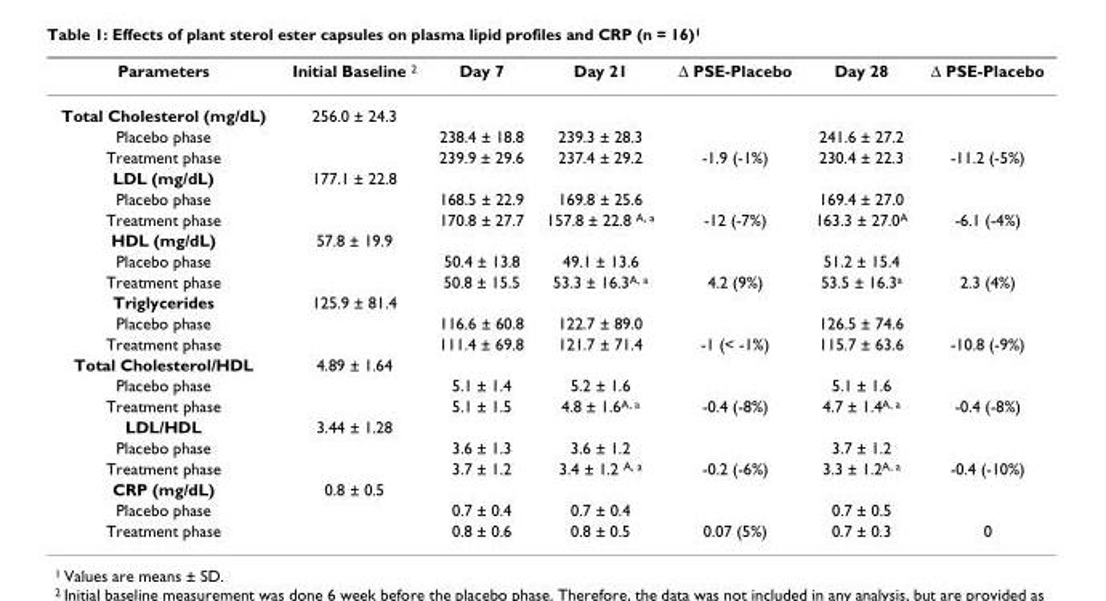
<table><thead><tr><td>Parameters</td><td>Initial Baseline <sup>2</sup></td><td>Day 7</td><td>Day 21</td><td>Δ PSE-Placebo</td><td>Day 28</td><td>Δ PSE-Placebo</td></tr></thead><tbody><tr><td>Total Cholesterol (mg/dL)</td><td>256.0 ± 24.3</td><td></td><td></td><td></td><td></td><td></td></tr><tr><td>Placebo phase</td><td></td><td>238.4 ± 18.8</td><td>239.3 ± 28.3</td><td></td><td>241.6 ± 27.2</td><td></td></tr><tr><td>Treatment phase</td><td></td><td>239.9 ± 29.6</td><td>237.4 ± 29.2</td><td>-1.9 (-1%)</td><td>230.4 ± 22.3</td><td>-11.2 (-5%)</td></tr><tr><td>LDL (mg/dL)</td><td>177.1 ± 22.8</td><td></td><td></td><td></td><td></td><td></td></tr><tr><td>Placebo phase</td><td></td><td>168.5 ± 22.9</td><td>169.8 ± 25.6</td><td></td><td>169.4 ± 27.0</td><td></td></tr><tr><td>Treatment phase</td><td></td><td>170.8 ± 27.7</td><td>157.8 ± 22.8 <sup>A, a</sup></td><td>-12 (-7%)</td><td>163.3 ± 27.0<sup>A</sup></td><td>-6.1 (-4%)</td></tr><tr><td>HDL (mg/dL)</td><td>57.8 ± 19.9</td><td></td><td></td><td></td><td></td><td></td></tr><tr><td>Placebo phase</td><td></td><td>50.4 ± 13.8</td><td>49.1 ± 13.6</td><td></td><td>51.2 ± 15.4</td><td></td></tr><tr><td>Treatment phase</td><td></td><td>50.8 ± 15.5</td><td>53.3 ± 16.3<sup>A, a</sup></td><td>4.2 (9%)</td><td>53.5 ± 16.3<sup>a</sup></td><td>2.3 (4%)</td></tr><tr><td>Triglycerides</td><td>125.9 ± 81.4</td><td></td><td></td><td></td><td></td><td></td></tr><tr><td>Placebo phase</td><td></td><td>116.6 ± 60.8</td><td>122.7 ± 89.0</td><td></td><td>126.5 ± 74.6</td><td></td></tr><tr><td>Treatment phase</td><td></td><td>111.4 ± 69.8</td><td>121.7 ± 71.4</td><td>-1 (&lt; -1%)</td><td>115.7 ± 63.6</td><td>-10.8 (-9%)</td></tr><tr><td>Total Cholesterol/HDL</td><td>4.89 ± 1.64</td><td></td><td></td><td></td><td></td><td></td></tr><tr><td>Placebo phase</td><td></td><td>5.1 ± 1.4</td><td>5.2 ± 1.6</td><td></td><td>5.1 ± 1.6</td><td></td></tr><tr><td>Treatment phase</td><td></td><td>5.1 ± 1.5</td><td>4.8 ± 1.6<sup>A, a</sup></td><td>-0.4 (-8%)</td><td>4.7 ± 1.4<sup>A, a</sup></td><td>-0.4 (-8%)</td></tr><tr><td>LDL/HDL</td><td>3.44 ± 1.28</td><td></td><td></td><td></td><td></td><td></td></tr><tr><td>Placebo phase</td><td></td><td>3.6 ± 1.3</td><td>3.6 ± 1.2</td><td></td><td>3.7 ± 1.2</td><td></td></tr><tr><td>Treatment phase</td><td></td><td>3.7 ± 1.2</td><td>3.4 ± 1.2 <sup>A, a</sup></td><td>-0.2 (-6%)</td><td>3.3 ± 1.2<sup>A, a</sup></td><td>-0.4 (-10%)</td></tr><tr><td>CRP (mg/dL)</td><td>0.8 ± 0.5</td><td></td><td></td><td></td><td></td><td></td></tr><tr><td>Placebo phase</td><td></td><td>0.7 ± 0.4</td><td>0.7 ± 0.4</td><td></td><td>0.7 ± 0.5</td><td></td></tr><tr><td>Treatment phase</td><td></td><td>0.8 ± 0.6</td><td>0.8 ± 0.5</td><td>0.07 (5%)</td><td>0.7 ± 0.3</td><td>0</td></tr></tbody></table>